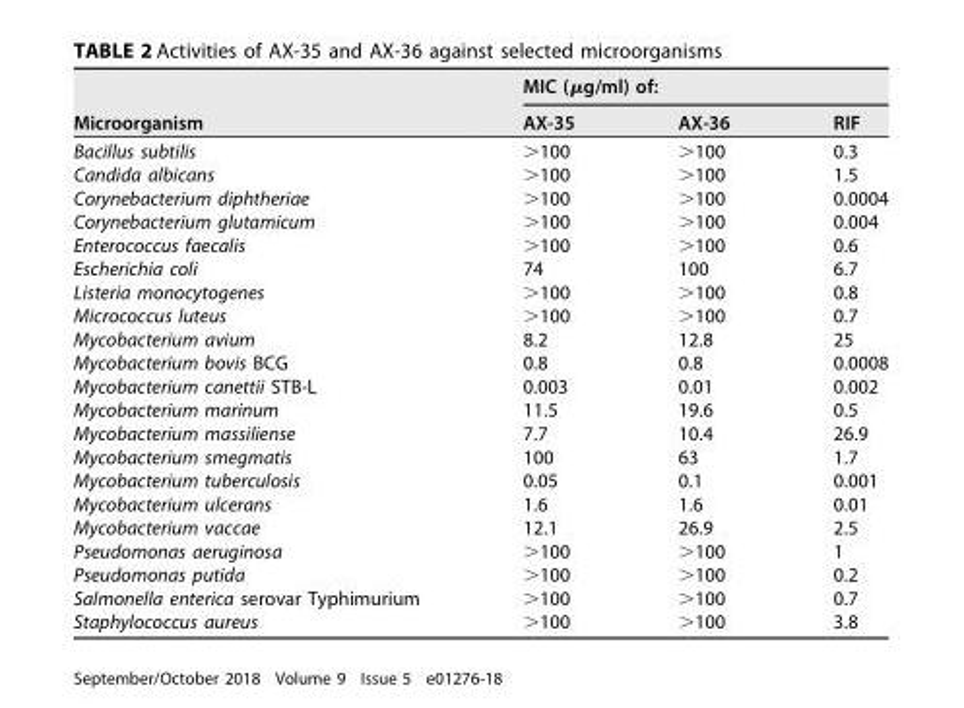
<table><thead><tr><td rowspan="2">Microorganism</td><td colspan="3">MIC (µg/ml) of:</td></tr><tr><td>AX-35</td><td>AX-36</td><td>RIF</td></tr></thead><tbody><tr><td>Bacillus subtilis</td><td>&gt;100</td><td>&gt;100</td><td>0.3</td></tr><tr><td>Candida albicans</td><td>&gt;100</td><td>&gt;100</td><td>1.5</td></tr><tr><td>Corynebacterium diphtheriae</td><td>&gt;100</td><td>&gt;100</td><td>0.0004</td></tr><tr><td>Corynebacterium glutamicum</td><td>&gt;100</td><td>&gt;100</td><td>0.004</td></tr><tr><td>Enterococcus faecalis</td><td>&gt;100</td><td>&gt;100</td><td>0.6</td></tr><tr><td>Escherichia coli</td><td>74</td><td>100</td><td>6.7</td></tr><tr><td>Listeria monocytogenes</td><td>&gt;100</td><td>&gt;100</td><td>0.8</td></tr><tr><td>Micrococcus luteus</td><td>&gt;100</td><td>&gt;100</td><td>0.7</td></tr><tr><td>Mycobacterium avium</td><td>8.2</td><td>12.8</td><td>25</td></tr><tr><td>Mycobacterium bovis BCG</td><td>0.8</td><td>0.8</td><td>0.0008</td></tr><tr><td>Mycobacterium canettii STB-L</td><td>0.003</td><td>0.01</td><td>0.002</td></tr><tr><td>Mycobacterium marinum</td><td>11.5</td><td>19.6</td><td>0.5</td></tr><tr><td>Mycobacterium massiliense</td><td>7.7</td><td>10.4</td><td>26.9</td></tr><tr><td>Mycobacterium smegmatis</td><td>100</td><td>63</td><td>1.7</td></tr><tr><td>Mycobacterium tuberculosis</td><td>0.05</td><td>0.1</td><td>0.001</td></tr><tr><td>Mycobacterium ulcerans</td><td>1.6</td><td>1.6</td><td>0.01</td></tr><tr><td>Mycobacterium vaccae</td><td>12.1</td><td>26.9</td><td>2.5</td></tr><tr><td>Pseudomonas aeruginosa</td><td>&gt;100</td><td>&gt;100</td><td>1</td></tr><tr><td>Pseudomonas putida</td><td>&gt;100</td><td>&gt;100</td><td>0.2</td></tr><tr><td>Salmonella enterica serovar Typhimurium</td><td>&gt;100</td><td>&gt;100</td><td>0.7</td></tr><tr><td>Staphylococcus aureus</td><td>&gt;100</td><td>&gt;100</td><td>3.8</td></tr></tbody></table>